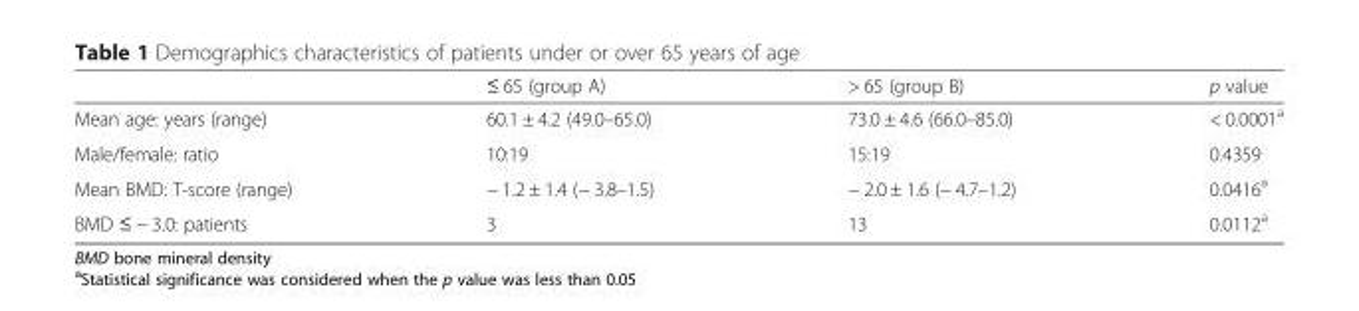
<table><thead><tr><td></td><td>≤ 65 (group A)</td><td>&gt; 65 (group B)</td><td>p value</td></tr></thead><tbody><tr><td>Mean age: years (range)</td><td>60.1 ± 4.2 (49.0–65.0)</td><td>73.0 ± 4.6 (66.0–85.0)</td><td>&lt; 0.0001<sup>a</sup></td></tr><tr><td>Male/female: ratio</td><td>10:19</td><td>15:19</td><td>0.4359</td></tr><tr><td>Mean BMD: T-score (range)</td><td>− 1.2 ± 1.4 (− 3.8–1.5)</td><td>− 2.0 ± 1.6 (− 4.7–1.2)</td><td>0.0416<sup>a</sup></td></tr><tr><td>BMD ≤ − 3.0: patients</td><td>3</td><td>13</td><td>0.0112<sup>a</sup></td></tr></tbody></table>